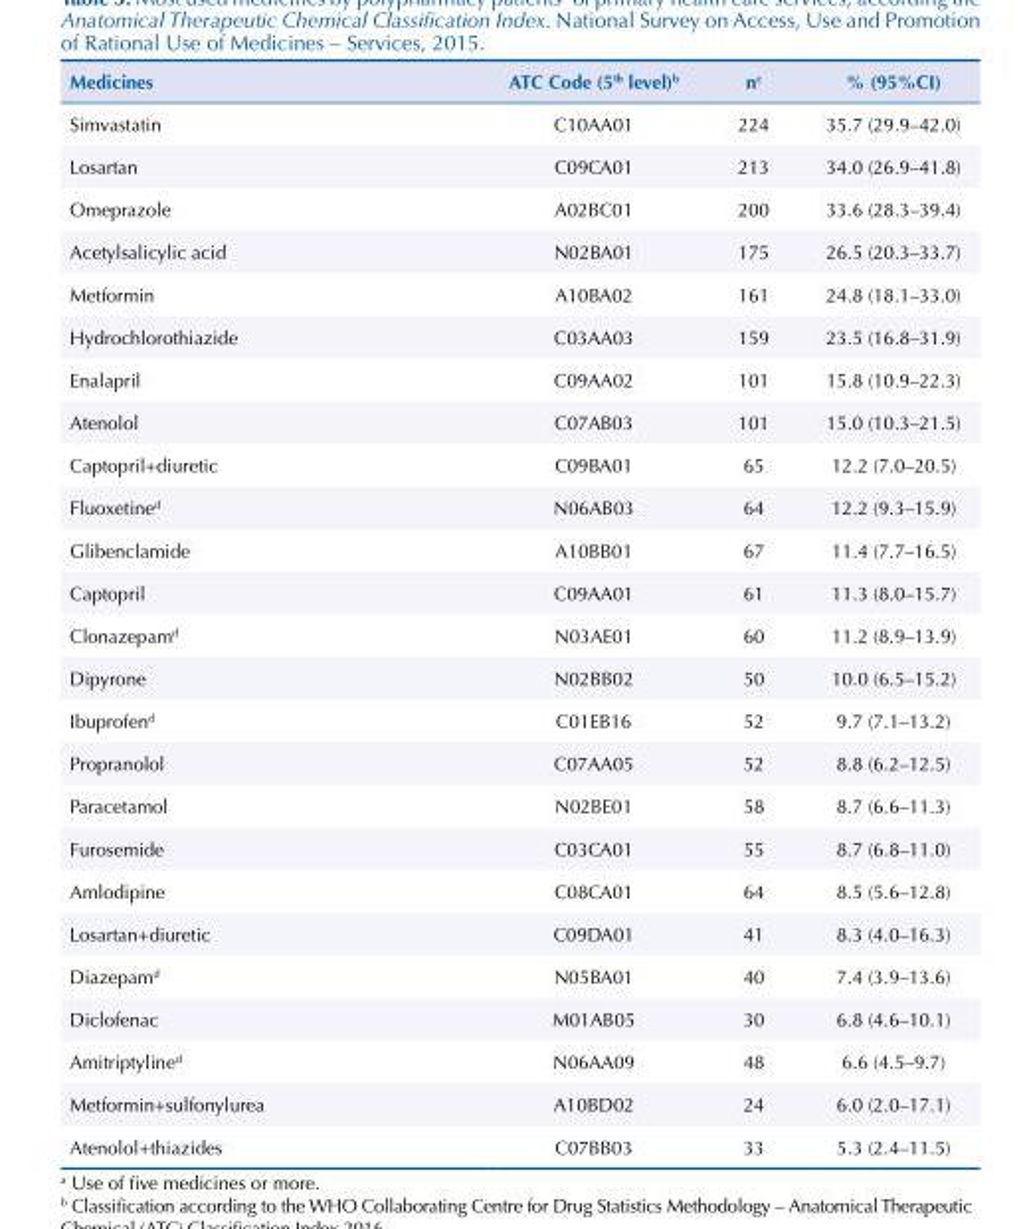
<table><thead><tr><td>Medicines</td><td>ATC Code (5<sup>th</sup> level)<sup>b</sup></td><td>n<sup>c</sup></td><td>% (95%CI)</td></tr></thead><tbody><tr><td>Simvastatin</td><td>C10AA01</td><td>224</td><td>35.7 (29.9–42.0)</td></tr><tr><td>Losartan</td><td>C09CA01</td><td>213</td><td>34.0 (26.9–41.8)</td></tr><tr><td>Omeprazole</td><td>A02BC01</td><td>200</td><td>33.6 (28.3–39.4)</td></tr><tr><td>Acetylsalicylic acid</td><td>N02BA01</td><td>175</td><td>26.5 (20.3–33.7)</td></tr><tr><td>Metformin</td><td>A10BA02</td><td>161</td><td>24.8 (18.1–33.0)</td></tr><tr><td>Hydrochlorothiazide</td><td>C03AA03</td><td>159</td><td>23.5 (16.8–31.9)</td></tr><tr><td>Enalapril</td><td>C09AA02</td><td>101</td><td>15.8 (10.9–22.3)</td></tr><tr><td>Atenolol</td><td>C07AB03</td><td>101</td><td>15.0 (10.3–21.5)</td></tr><tr><td>Captopril+diuretic</td><td>C09BA01</td><td>65</td><td>12.2 (7.0–20.5)</td></tr><tr><td>Fluoxetine<sup>d</sup></td><td>N06AB03</td><td>64</td><td>12.2 (9.3–15.9)</td></tr><tr><td>Glibenclamide</td><td>A10BB01</td><td>67</td><td>11.4 (7.7–16.5)</td></tr><tr><td>Captopril</td><td>C09AA01</td><td>61</td><td>11.3 (8.0–15.7)</td></tr><tr><td>Clonazepam<sup>d</sup></td><td>N03AE01</td><td>60</td><td>11.2 (8.9–13.9)</td></tr><tr><td>Dipyrone</td><td>N02BB02</td><td>50</td><td>10.0 (6.5–15.2)</td></tr><tr><td>Ibuprofen<sup>d</sup></td><td>C01EB16</td><td>52</td><td>9.7 (7.1–13.2)</td></tr><tr><td>Propranolol</td><td>C07AA05</td><td>52</td><td>8.8 (6.2–12.5)</td></tr><tr><td>Paracetamol</td><td>N02BE01</td><td>58</td><td>8.7 (6.6–11.3)</td></tr><tr><td>Furosemide</td><td>C03CA01</td><td>55</td><td>8.7 (6.8–11.0)</td></tr><tr><td>Amlodipine</td><td>C08CA01</td><td>64</td><td>8.5 (5.6–12.8)</td></tr><tr><td>Losartan+diuretic</td><td>C09DA01</td><td>41</td><td>8.3 (4.0–16.3)</td></tr><tr><td>Diazepam<sup>d</sup></td><td>N05BA01</td><td>40</td><td>7.4 (3.9–13.6)</td></tr><tr><td>Diclofenac</td><td>M01AB05</td><td>30</td><td>6.8 (4.6–10.1)</td></tr><tr><td>Amitriptyline<sup>d</sup></td><td>N06AA09</td><td>48</td><td>6.6 (4.5–9.7)</td></tr><tr><td>Metformin+sulfonylurea</td><td>A10BD02</td><td>24</td><td>6.0 (2.0–17.1)</td></tr><tr><td>Atenolol+thiazides</td><td>C07BB03</td><td>33</td><td>5.3 (2.4–11.5)</td></tr></tbody></table>